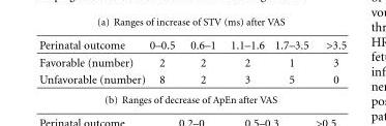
<table><thead><tr><td>Perinatal outcome</td><td>0–0.5</td><td>0.6–1</td><td>1.1–1.6</td><td>1.7–3.5</td><td>&gt;3.5</td></tr></thead><tbody><tr><td>Favorable (number)</td><td>2</td><td>2</td><td>2</td><td>1</td><td>3</td></tr><tr><td>Unfavorable (number)</td><td>8</td><td>2</td><td>3</td><td>5</td><td>0</td></tr></tbody></table>